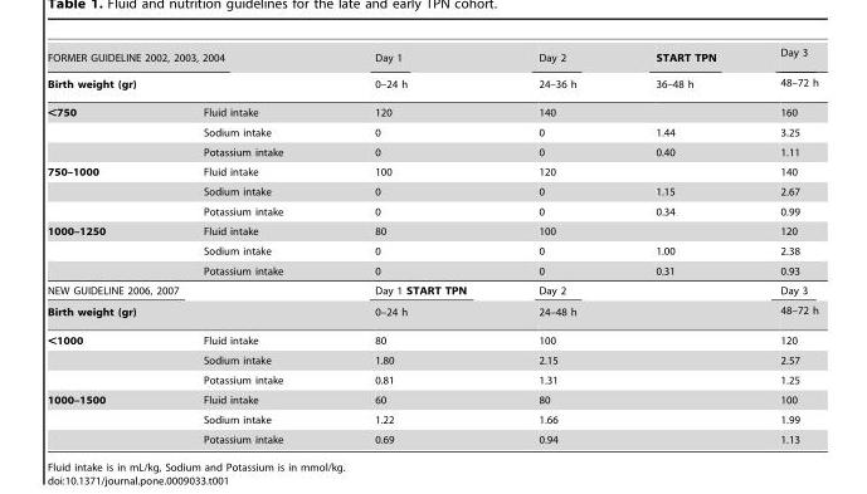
<table><tbody><tr><td colspan="2">FORMER GUIDELINE 2002, 2003, 2004</td><td>Day 1</td><td>Day 2</td><td>START TPN</td><td>Day 3</td></tr><tr><td colspan="2">Birth weight (gr)</td><td>0–24 h</td><td>24–36 h</td><td>36–48 h</td><td>48–72 h</td></tr><tr><td rowspan="3">&lt;750</td><td>Fluid intake</td><td>120</td><td colspan="2">140</td><td>160</td></tr><tr><td>Sodium intake</td><td>0</td><td>0</td><td>1.44</td><td>3.25</td></tr><tr><td>Potassium intake</td><td>0</td><td>0</td><td>0.40</td><td>1.11</td></tr><tr><td rowspan="3">750–1000</td><td>Fluid intake</td><td>100</td><td colspan="2">120</td><td>140</td></tr><tr><td>Sodium intake</td><td>0</td><td>0</td><td>1.15</td><td>2.67</td></tr><tr><td>Potassium intake</td><td>0</td><td>0</td><td>0.34</td><td>0.99</td></tr><tr><td rowspan="3">1000–1250</td><td>Fluid intake</td><td>80</td><td colspan="2">100</td><td>120</td></tr><tr><td>Sodium intake</td><td>0</td><td>0</td><td>1.00</td><td>2.38</td></tr><tr><td>Potassium intake</td><td>0</td><td>0</td><td>0.31</td><td>0.93</td></tr><tr><td colspan="2">NEW GUIDELINE 2006, 2007</td><td>Day 1 START TPN</td><td colspan="2">Day 2</td><td>Day 3</td></tr><tr><td colspan="2">Birth weight (gr)</td><td>0–24 h</td><td colspan="2">24–48 h</td><td>48–72 h</td></tr><tr><td rowspan="3">&lt;1000</td><td>Fluid intake</td><td>80</td><td colspan="2">100</td><td>120</td></tr><tr><td>Sodium intake</td><td>1.80</td><td colspan="2">2.15</td><td>2.57</td></tr><tr><td>Potassium intake</td><td>0.81</td><td colspan="2">1.31</td><td>1.25</td></tr><tr><td rowspan="3">1000–1500</td><td>Fluid intake</td><td>60</td><td colspan="2">80</td><td>100</td></tr><tr><td>Sodium intake</td><td>1.22</td><td colspan="2">1.66</td><td>1.99</td></tr><tr><td>Potassium intake</td><td>0.69</td><td colspan="2">0.94</td><td>1.13</td></tr></tbody></table>